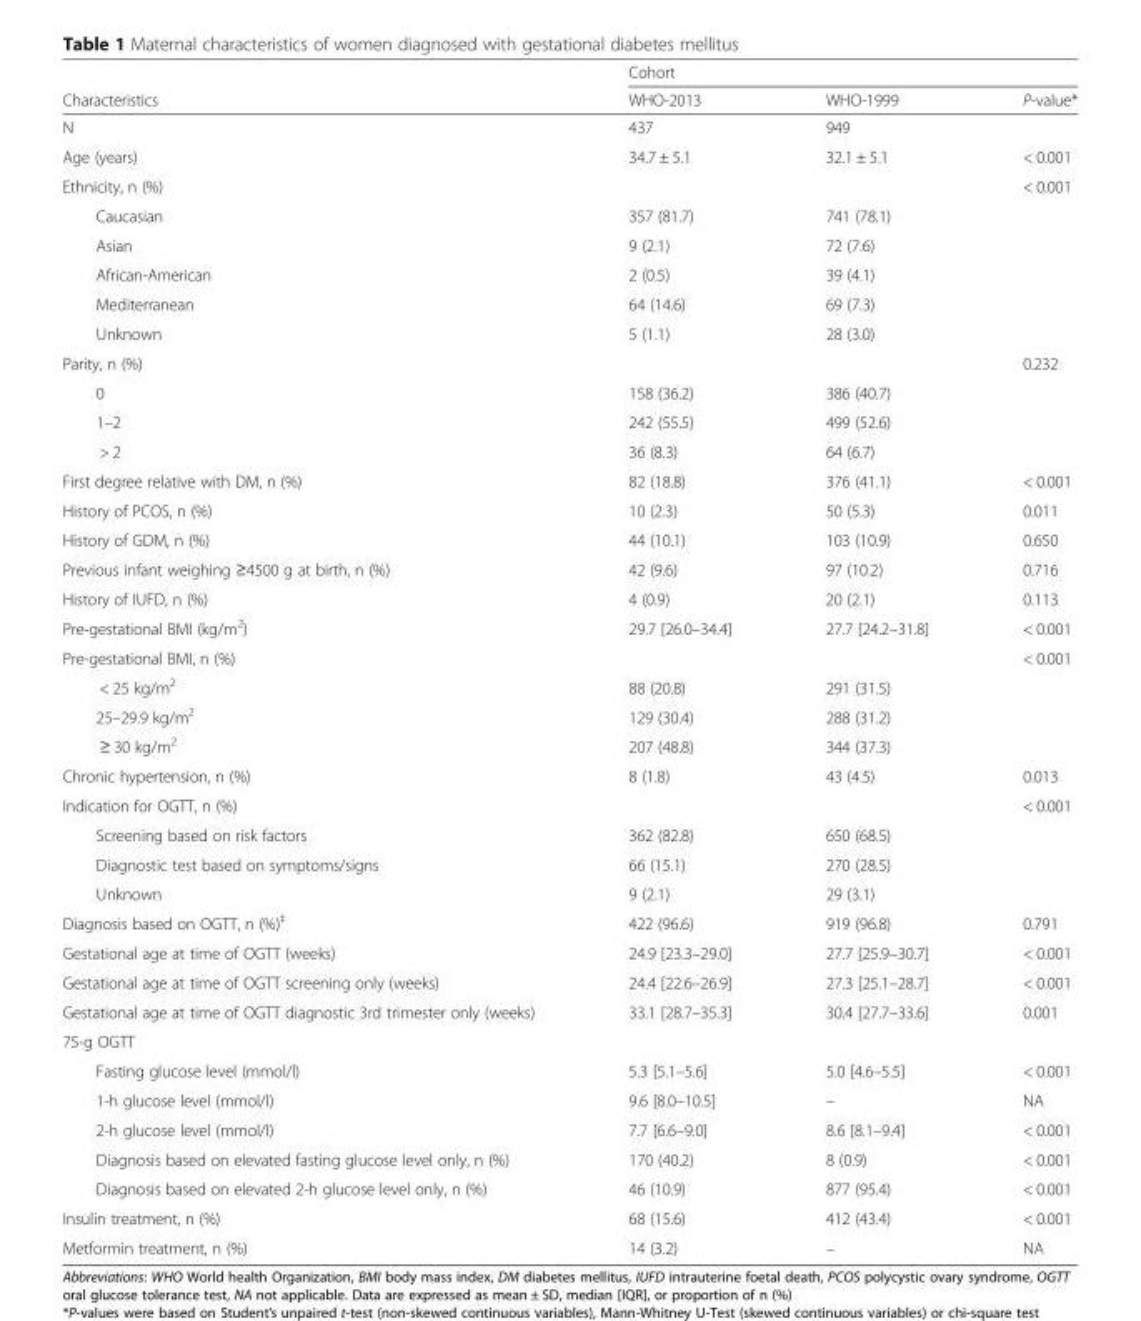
<table><thead><tr><td rowspan="2">Characteristics</td><td colspan="3">Cohort</td></tr><tr><td>WHO-2013</td><td>WHO-1999</td><td>P-value*</td></tr></thead><tbody><tr><td>N</td><td>437</td><td>949</td><td></td></tr><tr><td>Age (years)</td><td>34.7 ± 5.1</td><td>32.1 ± 5.1</td><td>&lt; 0.001</td></tr><tr><td>Ethnicity, n (%)</td><td></td><td></td><td>&lt; 0.001</td></tr><tr><td>Caucasian</td><td>357 (81.7)</td><td>741 (78.1)</td><td></td></tr><tr><td>Asian</td><td>9 (2.1)</td><td>72 (7.6)</td><td></td></tr><tr><td>African-American</td><td>2 (0.5)</td><td>39 (4.1)</td><td></td></tr><tr><td>Mediterranean</td><td>64 (14.6)</td><td>69 (7.3)</td><td></td></tr><tr><td>Unknown</td><td>5 (1.1)</td><td>28 (3.0)</td><td></td></tr><tr><td>Parity, n (%)</td><td></td><td></td><td>0.232</td></tr><tr><td>0</td><td>158 (36.2)</td><td>386 (40.7)</td><td></td></tr><tr><td>1–2</td><td>242 (55.5)</td><td>499 (52.6)</td><td></td></tr><tr><td>&gt; 2</td><td>36 (8.3)</td><td>64 (6.7)</td><td></td></tr><tr><td>First degree relative with DM, n (%)</td><td>82 (18.8)</td><td>376 (41.1)</td><td>&lt; 0.001</td></tr><tr><td>History of PCOS, n (%)</td><td>10 (2.3)</td><td>50 (5.3)</td><td>0.011</td></tr><tr><td>History of GDM, n (%)</td><td>44 (10.1)</td><td>103 (10.9)</td><td>0.650</td></tr><tr><td>Previous infant weighing ≥4500 g at birth, n (%)</td><td>42 (9.6)</td><td>97 (10.2)</td><td>0.716</td></tr><tr><td>History of IUFD, n (%)</td><td>4 (0.9)</td><td>20 (2.1)</td><td>0.113</td></tr><tr><td>Pre-gestational BMI (kg/m<sup>2</sup>)</td><td>29.7 [26.0–34.4]</td><td>27.7 [24.2–31.8]</td><td>&lt; 0.001</td></tr><tr><td>Pre-gestational BMI, n (%)</td><td></td><td></td><td>&lt; 0.001</td></tr><tr><td>&lt; 25 kg/m<sup>2</sup></td><td>88 (20.8)</td><td>291 (31.5)</td><td></td></tr><tr><td>25–29.9 kg/m<sup>2</sup></td><td>129 (30.4)</td><td>288 (31.2)</td><td></td></tr><tr><td>≥ 30 kg/m<sup>2</sup></td><td>207 (48.8)</td><td>344 (37.3)</td><td></td></tr><tr><td>Chronic hypertension, n (%)</td><td>8 (1.8)</td><td>43 (4.5)</td><td>0.013</td></tr><tr><td>Indication for OGTT, n (%)</td><td></td><td></td><td>&lt; 0.001</td></tr><tr><td>Screening based on risk factors</td><td>362 (82.8)</td><td>650 (68.5)</td><td></td></tr><tr><td>Diagnostic test based on symptoms/signs</td><td>66 (15.1)</td><td>270 (28.5)</td><td></td></tr><tr><td>Unknown</td><td>9 (2.1)</td><td>29 (3.1)</td><td></td></tr><tr><td>Diagnosis based on OGTT, n (%)<sup>‡</sup></td><td>422 (96.6)</td><td>919 (96.8)</td><td>0.791</td></tr><tr><td>Gestational age at time of OGTT (weeks)</td><td>24.9 [23.3–29.0]</td><td>27.7 [25.9–30.7]</td><td>&lt; 0.001</td></tr><tr><td>Gestational age at time of OGTT screening only (weeks)</td><td>24.4 [22.6–26.9]</td><td>27.3 [25.1–28.7]</td><td>&lt; 0.001</td></tr><tr><td>Gestational age at time of OGTT diagnostic 3rd trimester only (weeks)</td><td>33.1 [28.7–35.3]</td><td>30.4 [27.7–33.6]</td><td>0.001</td></tr><tr><td colspan="4">75-g OGTT</td></tr><tr><td>Fasting glucose level (mmol/l)</td><td>5.3 [5.1–5.6]</td><td>5.0 [4.6–5.5]</td><td>&lt; 0.001</td></tr><tr><td>1-h glucose level (mmol/l)</td><td>9.6 [8.0–10.5]</td><td>–</td><td>NA</td></tr><tr><td>2-h glucose level (mmol/l)</td><td>7.7 [6.6–9.0]</td><td>8.6 [8.1–9.4]</td><td>&lt; 0.001</td></tr><tr><td>Diagnosis based on elevated fasting glucose level only, n (%)</td><td>170 (40.2)</td><td>8 (0.9)</td><td>&lt; 0.001</td></tr><tr><td>Diagnosis based on elevated 2-h glucose level only, n (%)</td><td>46 (10.9)</td><td>877 (95.4)</td><td>&lt; 0.001</td></tr><tr><td>Insulin treatment, n (%)</td><td>68 (15.6)</td><td>412 (43.4)</td><td>&lt; 0.001</td></tr><tr><td>Metformin treatment, n (%)</td><td>14 (3.2)</td><td>–</td><td>NA</td></tr></tbody></table>